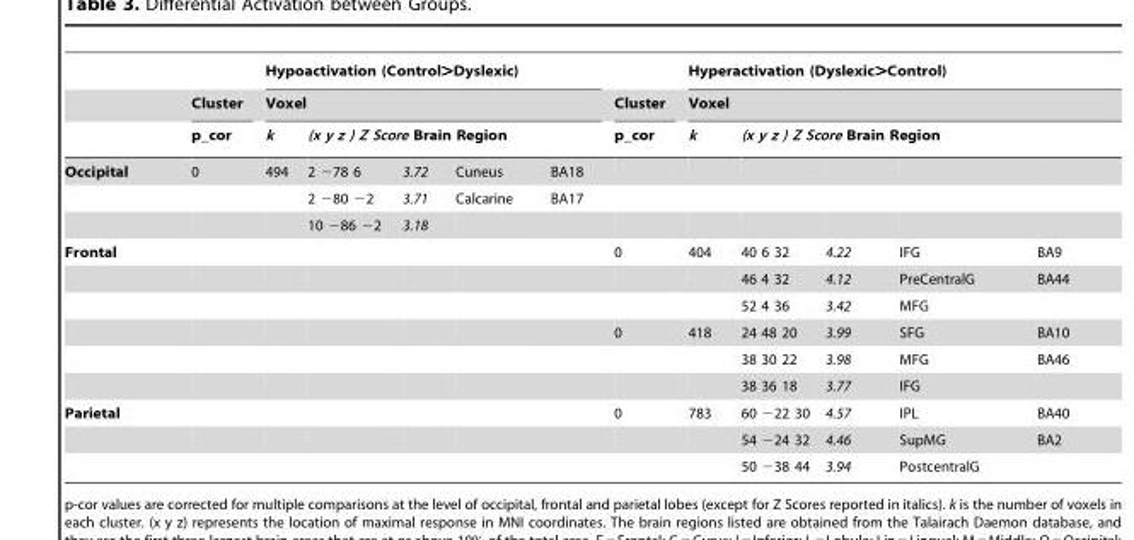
<table><thead><tr><td rowspan="4">Occipital</td><td rowspan="4">Cluster p_cor 0</td><td rowspan="2" colspan="5">Hypoactivation (Control&gt;Dyslexic) Voxel</td><td rowspan="4">Cluster p_cor</td><td rowspan="2" colspan="5">Hyperactivation (Dyslexic&gt;Control) Voxel</td></tr><tr></tr><tr><td rowspan="2">k 494</td><td colspan="4">(x y z ) Z Score Brain Region</td><td rowspan="2">k</td><td colspan="4">(x y z ) Z Score Brain Region</td></tr><tr><td>2 −78 6</td><td>3.72</td><td>Cuneus</td><td>BA18</td><td></td><td></td><td></td><td></td></tr></thead><tbody><tr><td></td><td></td><td></td><td>2 −80 −2</td><td>3.71</td><td>Calcarine</td><td>BA17</td><td></td><td></td><td></td><td></td><td></td><td></td></tr><tr><td></td><td></td><td></td><td>10 −86 −2</td><td>3.18</td><td></td><td></td><td></td><td></td><td></td><td></td><td></td><td></td></tr><tr><td rowspan="6">Frontal</td><td></td><td></td><td></td><td></td><td></td><td></td><td>0</td><td>404</td><td>40 6 32</td><td>4.22</td><td>IFG</td><td>BA9</td></tr><tr><td></td><td></td><td></td><td></td><td></td><td></td><td></td><td></td><td>46 4 32</td><td>4.12</td><td>PreCentralG</td><td>BA44</td></tr><tr><td></td><td></td><td></td><td></td><td></td><td></td><td></td><td></td><td>52 4 36</td><td>3.42</td><td>MFG</td><td></td></tr><tr><td></td><td></td><td></td><td></td><td></td><td></td><td>0</td><td>418</td><td>24 48 20</td><td>3.99</td><td>SFG</td><td>BA10</td></tr><tr><td></td><td></td><td></td><td></td><td></td><td></td><td></td><td></td><td>38 30 22</td><td>3.98</td><td>MFG</td><td>BA46</td></tr><tr><td></td><td></td><td></td><td></td><td></td><td></td><td></td><td></td><td>38 36 18</td><td>3.77</td><td>IFG</td><td></td></tr><tr><td rowspan="3">Parietal</td><td></td><td></td><td></td><td></td><td></td><td></td><td>0</td><td>783</td><td>60 −22 30</td><td>4.57</td><td>IPL</td><td>BA40</td></tr><tr><td></td><td></td><td></td><td></td><td></td><td></td><td></td><td></td><td>54 −24 32</td><td>4.46</td><td>SupMG</td><td>BA2</td></tr><tr><td></td><td></td><td></td><td></td><td></td><td></td><td></td><td></td><td>50 −38 44</td><td>3.94</td><td>PostcentralG</td><td></td></tr></tbody></table>